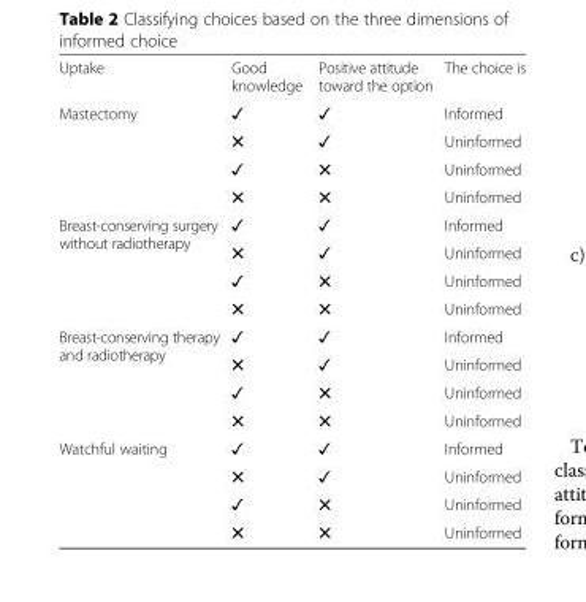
<table><tbody><tr><td>Uptake</td><td>Good knowledge</td><td>Positive attitude toward the option</td><td>The choice is</td></tr><tr><td rowspan="4">Mastectomy</td><td>✓</td><td>✓</td><td>Informed</td></tr><tr><td>✕</td><td>✓</td><td>Uninformed</td></tr><tr><td>✓</td><td>✕</td><td>Uninformed</td></tr><tr><td>✕</td><td>✕</td><td>Uninformed</td></tr><tr><td rowspan="4">Breast-conserving surgery without radiotherapy</td><td>✓</td><td>✓</td><td>Informed</td></tr><tr><td>✕</td><td>✓</td><td>Uninformed</td></tr><tr><td>✓</td><td>✕</td><td>Uninformed</td></tr><tr><td>✕</td><td>✕</td><td>Uninformed</td></tr><tr><td rowspan="4">Breast-conserving therapy and radiotherapy</td><td>✓</td><td>✓</td><td>Informed</td></tr><tr><td>✕</td><td>✓</td><td>Uninformed</td></tr><tr><td>✓</td><td>✕</td><td>Uninformed</td></tr><tr><td>✕</td><td>✕</td><td>Uninformed</td></tr><tr><td rowspan="4">Watchful waiting</td><td>✓</td><td>✓</td><td>Informed</td></tr><tr><td>✕</td><td>✓</td><td>Uninformed</td></tr><tr><td>✓</td><td>✕</td><td>Uninformed</td></tr><tr><td>✕</td><td>✕</td><td>Uninformed</td></tr></tbody></table>